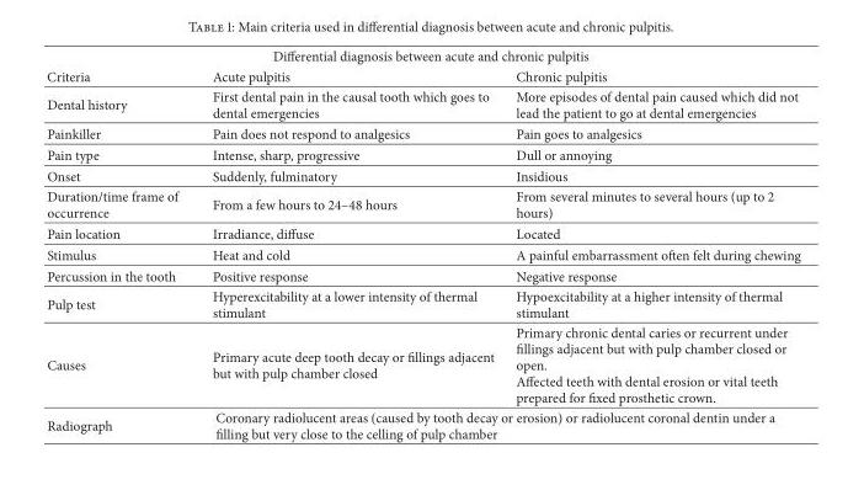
<table><thead><tr><td colspan="3">Differential diagnosis between acute and chronic pulpitis</td></tr><tr><td>Criteria</td><td>Acute pulpitis</td><td>Chronic pulpitis</td></tr></thead><tbody><tr><td>Dental history</td><td>First dental pain in the causal tooth which goes to dental emergencies</td><td>More episodes of dental pain caused which did not lead the patient to go at dental emergencies</td></tr><tr><td>Painkiller</td><td>Pain does not respond to analgesics</td><td>Pain goes to analgesics</td></tr><tr><td>Pain type</td><td>Intense, sharp, progressive</td><td>Dull or annoying</td></tr><tr><td>Onset</td><td>Suddenly, fulminatory</td><td>Insidious</td></tr><tr><td>Duration/time frame of occurrence</td><td>From a few hours to 24–48 hours</td><td>From several minutes to several hours (up to 2 hours)</td></tr><tr><td>Pain location</td><td>Irradiance, diffuse</td><td>Located</td></tr><tr><td>Stimulus</td><td>Heat and cold</td><td>A painful embarrassment often felt during chewing</td></tr><tr><td>Percussion in the tooth</td><td>Positive response</td><td>Negative response</td></tr><tr><td>Pulp test</td><td>Hyperexcitability at a lower intensity of thermal stimulant</td><td>Hypoexcitability at a higher intensity of thermal stimulant</td></tr><tr><td>Causes</td><td>Primary acute deep tooth decay or fillings adjacent but with pulp chamber closed</td><td>Primary chronic dental caries or recurrent under fillings adjacent but with pulp chamber closed or open. Affected teeth with dental erosion or vital teeth prepared for fixed prosthetic crown.</td></tr><tr><td>Radiograph</td><td colspan="2">Coronary radiolucent areas (caused by tooth decay or erosion) or radiolucent coronal dentin under a filling but very close to the celling of pulp chamber</td></tr></tbody></table>